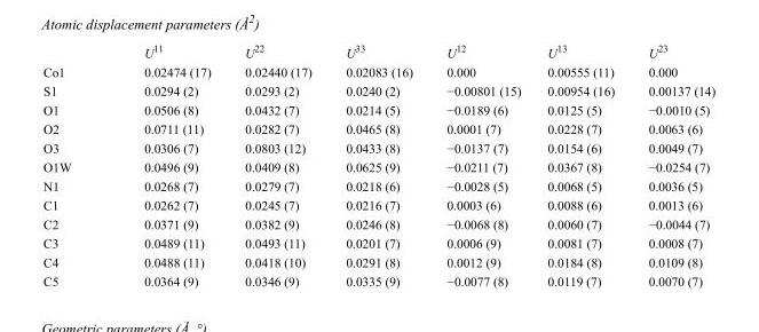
<table><thead><tr><td></td><td>U<sup>11</sup></td><td>U<sup>22</sup></td><td>U<sup>33</sup></td><td>U<sup>12</sup></td><td>U<sup>13</sup></td><td>U<sup>23</sup></td></tr></thead><tbody><tr><td>Co1</td><td>0.02474 (17)</td><td>0.02440 (17)</td><td>0.02083 (16)</td><td>0.000</td><td>0.00555 (11)</td><td>0.000</td></tr><tr><td>S1</td><td>0.0294 (2)</td><td>0.0293 (2)</td><td>0.0240 (2)</td><td>−0.00801 (15)</td><td>0.00954 (16)</td><td>0.00137 (14)</td></tr><tr><td>O1</td><td>0.0506 (8)</td><td>0.0432 (7)</td><td>0.0214 (5)</td><td>−0.0189 (6)</td><td>0.0125 (5)</td><td>−0.0010 (5)</td></tr><tr><td>O2</td><td>0.0711 (11)</td><td>0.0282 (7)</td><td>0.0465 (8)</td><td>0.0001 (7)</td><td>0.0228 (7)</td><td>0.0063 (6)</td></tr><tr><td>O3</td><td>0.0306 (7)</td><td>0.0803 (12)</td><td>0.0433 (8)</td><td>−0.0137 (7)</td><td>0.0154 (6)</td><td>0.0049 (7)</td></tr><tr><td>O1W</td><td>0.0496 (9)</td><td>0.0409 (8)</td><td>0.0625 (9)</td><td>−0.0211 (7)</td><td>0.0367 (8)</td><td>−0.0254 (7)</td></tr><tr><td>N1</td><td>0.0268 (7)</td><td>0.0279 (7)</td><td>0.0218 (6)</td><td>−0.0028 (5)</td><td>0.0068 (5)</td><td>0.0036 (5)</td></tr><tr><td>C1</td><td>0.0262 (7)</td><td>0.0245 (7)</td><td>0.0216 (7)</td><td>0.0003 (6)</td><td>0.0088 (6)</td><td>0.0013 (6)</td></tr><tr><td>C2</td><td>0.0371 (9)</td><td>0.0382 (9)</td><td>0.0246 (8)</td><td>−0.0068 (8)</td><td>0.0060 (7)</td><td>−0.0044 (7)</td></tr><tr><td>C3</td><td>0.0489 (11)</td><td>0.0493 (11)</td><td>0.0201 (7)</td><td>0.0006 (9)</td><td>0.0081 (7)</td><td>0.0008 (7)</td></tr><tr><td>C4</td><td>0.0488 (11)</td><td>0.0418 (10)</td><td>0.0291 (8)</td><td>0.0012 (9)</td><td>0.0184 (8)</td><td>0.0109 (8)</td></tr><tr><td>C5</td><td>0.0364 (9)</td><td>0.0346 (9)</td><td>0.0335 (9)</td><td>−0.0077 (8)</td><td>0.0119 (7)</td><td>0.0070 (7)</td></tr></tbody></table>